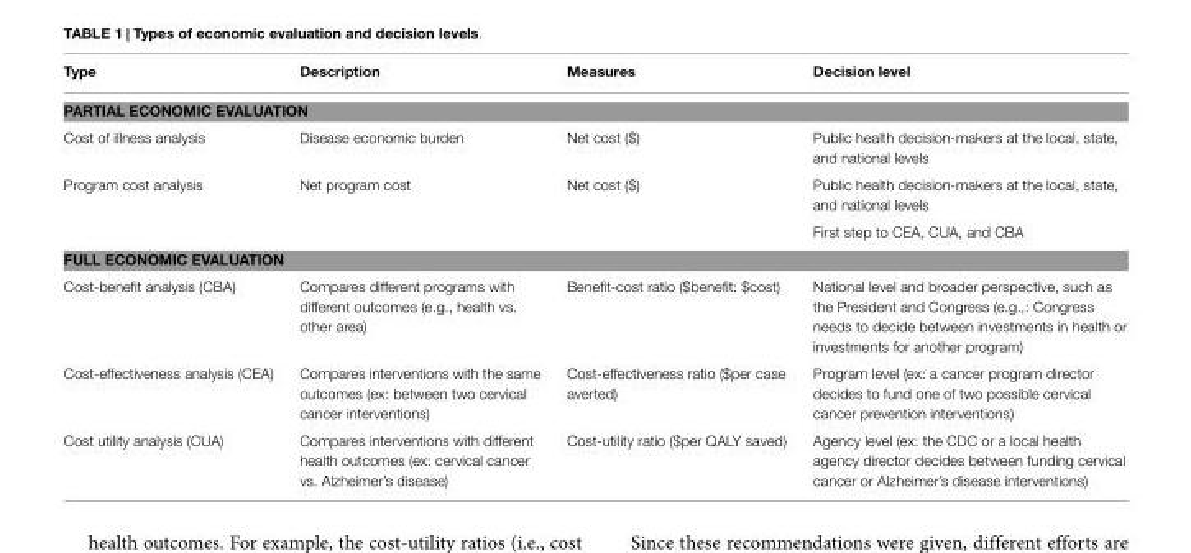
<table><thead><tr><td>Type</td><td>Description</td><td>Measures</td><td>Decision level</td></tr></thead><tbody><tr><td colspan="4">PARTIAL ECONOMIC EVALUATION</td></tr><tr><td>Cost of illness analysis</td><td>Disease economic burden</td><td>Net cost ($)</td><td>Public health decision-makers at the local, state, and national levels</td></tr><tr><td rowspan="2">Program cost analysis</td><td>Net program cost</td><td>Net cost ($)</td><td>Public health decision-makers at the local, state, and national levels</td></tr><tr><td></td><td></td><td>First step to CEA, CUA, and CBA</td></tr><tr><td colspan="4">FULL ECONOMIC EVALUATION</td></tr><tr><td>Cost-benefit analysis (CBA)</td><td>Compares different programs with different outcomes (e.g., health vs. other area)</td><td>Benefit-cost ratio ($benefit: $cost)</td><td>National level and broader perspective, such as the President and Congress (e.g.,: Congress needs to decide between investments in health or investments for another program)</td></tr><tr><td>Cost-effectiveness analysis (CEA)</td><td>Compares interventions with the same outcomes (ex: between two cervical cancer interventions)</td><td>Cost-effectiveness ratio ($per case averted)</td><td>Program level (ex: a cancer program director decides to fund one of two possible cervical cancer prevention interventions)</td></tr><tr><td>Cost utility analysis (CUA)</td><td>Compares interventions with different health outcomes (ex: cervical cancer vs. Alzheimer’s disease)</td><td>Cost-utility ratio ($per QALY saved)</td><td>Agency level (ex: the CDC or a local health agency director decides between funding cervical cancer or Alzheimer’s disease interventions)</td></tr></tbody></table>